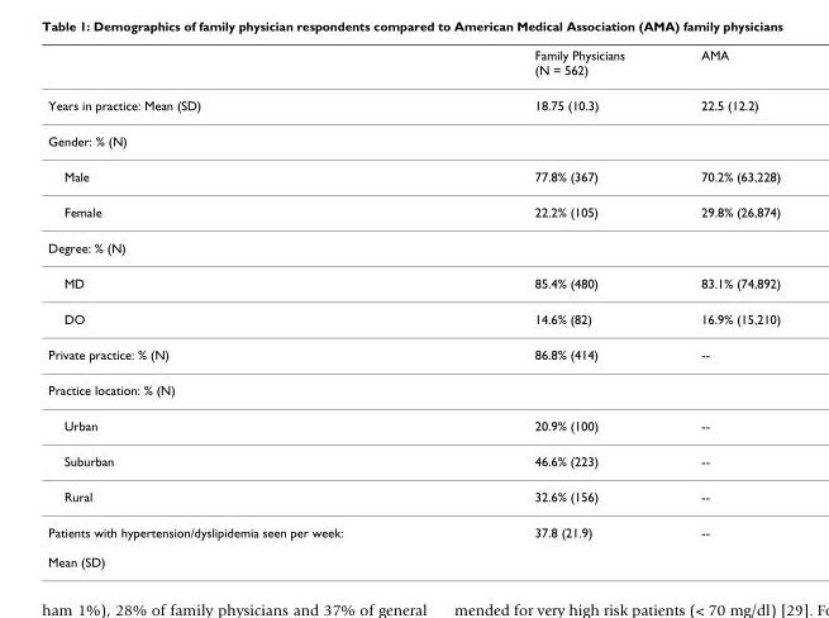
<table><thead><tr><td></td><td>Family Physicians (N = 562)</td><td>AMA</td></tr></thead><tbody><tr><td>Years in practice: Mean (SD)</td><td>18.75 (10.3)</td><td>22.5 (12.2)</td></tr><tr><td colspan="3">Gender: % (N)</td></tr><tr><td>Male</td><td>77.8% (367)</td><td>70.2% (63,228)</td></tr><tr><td>Female</td><td>22.2% (105)</td><td>29.8% (26,874)</td></tr><tr><td colspan="3">Degree: % (N)</td></tr><tr><td>MD</td><td>85.4% (480)</td><td>83.1% (74,892)</td></tr><tr><td>DO</td><td>14.6% (82)</td><td>16.9% (15,210)</td></tr><tr><td>Private practice: % (N)</td><td>86.8% (414)</td><td>--</td></tr><tr><td colspan="3">Practice location: % (N)</td></tr><tr><td>Urban</td><td>20.9% (100)</td><td>--</td></tr><tr><td>Suburban</td><td>46.6% (223)</td><td>--</td></tr><tr><td>Rural</td><td>32.6% (156)</td><td>--</td></tr><tr><td>Patients with hypertension/dyslipidemia seen per week: Mean (SD)</td><td>37.8 (21.9)</td><td>--</td></tr></tbody></table>